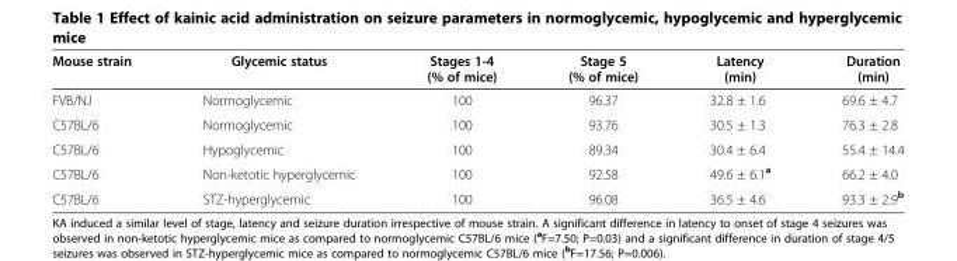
<table><thead><tr><td>Mouse strain</td><td>Glycemic status</td><td>Stages 1-4 (% of mice)</td><td>Stage 5 (% of mice)</td><td>Latency (min)</td><td>Duration (min)</td></tr></thead><tbody><tr><td>FVB/NJ</td><td>Normoglycemic</td><td>100</td><td>96.37</td><td>32.8 ± 1.6</td><td>69.6 ± 4.7</td></tr><tr><td>C57BL/6</td><td>Normoglycemic</td><td>100</td><td>93.76</td><td>30.5 ± 1.3</td><td>76.3 ± 2.8</td></tr><tr><td>C57BL/6</td><td>Hypoglycemic</td><td>100</td><td>89.34</td><td>30.4 ± 6.4</td><td>55.4 ± 14.4</td></tr><tr><td>C57BL/6</td><td>Non-ketotic hyperglycemic</td><td>100</td><td>92.58</td><td>49.6 ± 6.1<sup>a</sup></td><td>66.2 ± 4.0</td></tr><tr><td>C57BL/6</td><td>STZ-hyperglycemic</td><td>100</td><td>96.08</td><td>36.5 ± 4.6</td><td>93.3 ± 2.9<sup>b</sup></td></tr></tbody></table>